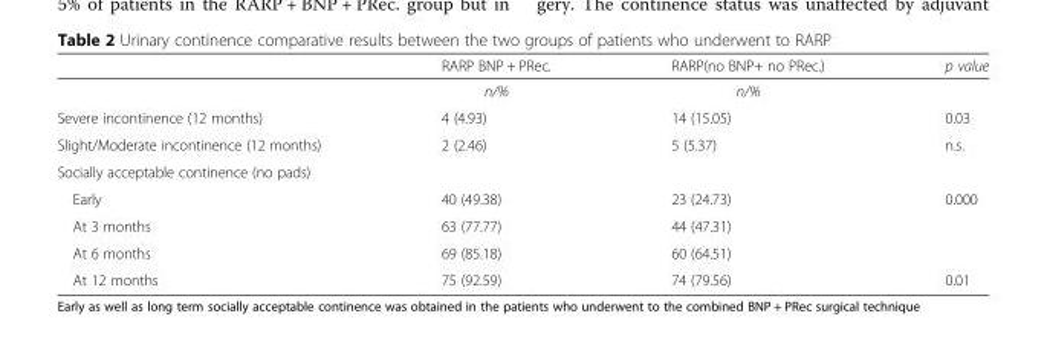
<table><thead><tr><td></td><td>RARP BNP + PRec.</td><td>RARP(no BNP+ no PRec.)</td><td>p value</td></tr></thead><tbody><tr><td></td><td>n/%</td><td>n/%</td><td></td></tr><tr><td>Severe incontinence (12 months)</td><td>4 (4.93)</td><td>14 (15.05)</td><td>0.03</td></tr><tr><td>Slight/Moderate incontinence (12 months)</td><td>2 (2.46)</td><td>5 (5.37)</td><td>n.s.</td></tr><tr><td colspan="4">Socially acceptable continence (no pads)</td></tr><tr><td>Early</td><td>40 (49.38)</td><td>23 (24.73)</td><td>0.000</td></tr><tr><td>At 3 months</td><td>63 (77.77)</td><td>44 (47.31)</td><td></td></tr><tr><td>At 6 months</td><td>69 (85.18)</td><td>60 (64.51)</td><td></td></tr><tr><td>At 12 months</td><td>75 (92.59)</td><td>74 (79.56)</td><td>0.01</td></tr></tbody></table>